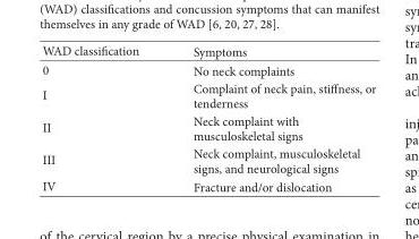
<table><thead><tr><td>WAD classification</td><td>Symptoms</td></tr></thead><tbody><tr><td>0</td><td>No neck complaints</td></tr><tr><td>I</td><td>Complaint of neck pain, stiffness, or tenderness</td></tr><tr><td>II</td><td>Neck complaint with musculoskeletal signs</td></tr><tr><td>III</td><td>Neck complaint, musculoskeletal signs, and neurological signs</td></tr><tr><td>IV</td><td>Fracture and/or dislocation</td></tr></tbody></table>